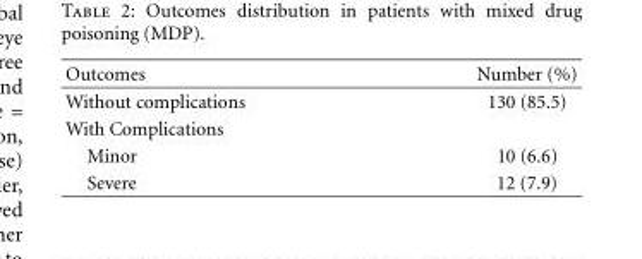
<table><thead><tr><td>Outcomes</td><td>Number (%)</td></tr></thead><tbody><tr><td>Without complications</td><td>130 (85.5)</td></tr><tr><td colspan="2">With Complications</td></tr><tr><td>Minor</td><td>10 (6.6)</td></tr><tr><td>Severe</td><td>12 (7.9)</td></tr></tbody></table>